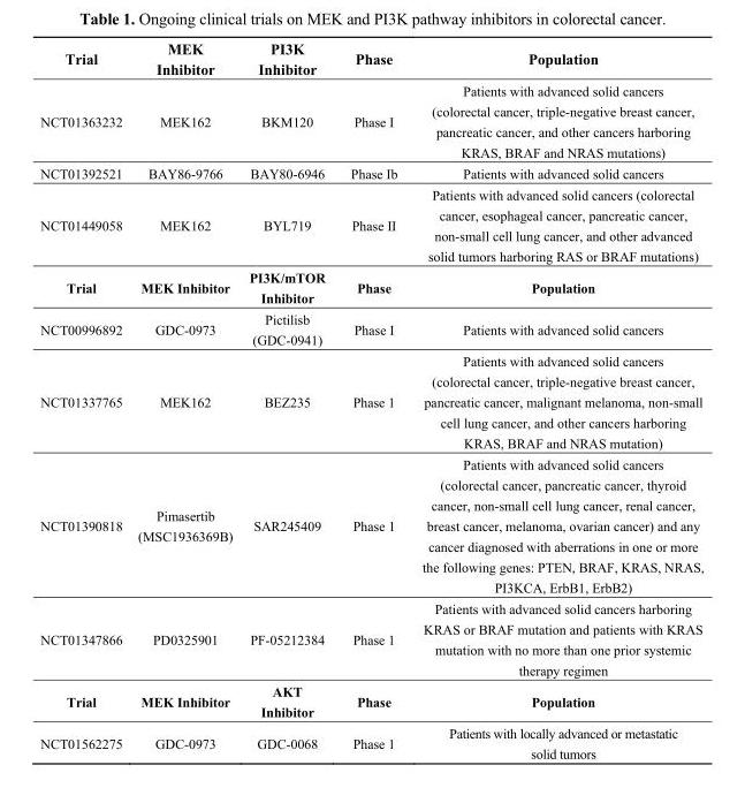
<table><thead><tr><td>Trial</td><td>MEK Inhibitor</td><td>PI3K Inhibitor</td><td>Phase</td><td>Population</td></tr></thead><tbody><tr><td>NCT01363232</td><td>MEK162</td><td>BKM120</td><td>Phase I</td><td>Patients with advanced solid cancers (colorectal cancer, triple-negative breast cancer, pancreatic cancer, and other cancers harboring KRAS, BRAF and NRAS mutations)</td></tr><tr><td>NCT01392521</td><td>BAY86-9766</td><td>BAY80-6946</td><td>Phase Ib</td><td>Patients with advanced solid cancers</td></tr><tr><td>NCT01449058</td><td>MEK162</td><td>BYL719</td><td>Phase II</td><td>Patients with advanced solid cancers (colorectal cancer, esophageal cancer, pancreatic cancer, non-small cell lung cancer, and other advanced solid tumors harboring RAS or BRAF mutations)</td></tr><tr><td>Trial</td><td>MEK Inhibitor</td><td>PI3K/mTOR Inhibitor</td><td>Phase</td><td>Population</td></tr><tr><td>NCT00996892</td><td>GDC-0973</td><td>Pictilisb (GDC-0941)</td><td>Phase I</td><td>Patients with advanced solid cancers</td></tr><tr><td>NCT01337765</td><td>MEK162</td><td>BEZ235</td><td>Phase 1</td><td>Patients with advanced solid cancers (colorectal cancer, triple-negative breast cancer, pancreatic cancer, malignant melanoma, non-small cell lung cancer, and other cancers harboring KRAS, BRAF and NRAS mutation)</td></tr><tr><td>NCT01390818</td><td>Pimasertib (MSC1936369B)</td><td>SAR245409</td><td>Phase 1</td><td>Patients with advanced solid cancers (colorectal cancer, pancreatic cancer, thyroid cancer, non-small cell lung cancer, renal cancer, breast cancer, melanoma, ovarian cancer) and any cancer diagnosed with aberrations in one or more the following genes: PTEN, BRAF, KRAS, NRAS, PI3KCA, ErbB1, ErbB2)</td></tr><tr><td>NCT01347866</td><td>PD0325901</td><td>PF-05212384</td><td>Phase 1</td><td>Patients with advanced solid cancers harboring KRAS or BRAF mutation and patients with KRAS mutation with no more than one prior systemic therapy regimen</td></tr><tr><td>Trial</td><td>MEK Inhibitor</td><td>AKT Inhibitor</td><td>Phase</td><td>Population</td></tr><tr><td>NCT01562275</td><td>GDC-0973</td><td>GDC-0068</td><td>Phase 1</td><td>Patients with locally advanced or metastatic solid tumors</td></tr></tbody></table>